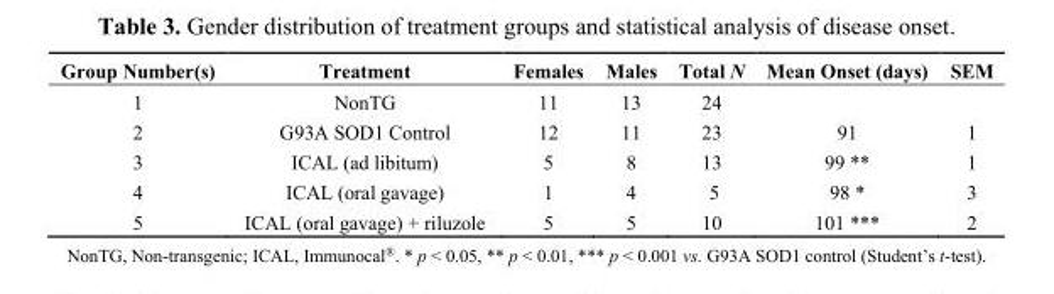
<table><thead><tr><td>Group Number(s)</td><td>Treatment</td><td>Females</td><td>Males</td><td>Total N</td><td>Mean Onset (days)</td><td>SEM</td></tr></thead><tbody><tr><td>1</td><td>NonTG</td><td>11</td><td>13</td><td>24</td><td></td><td></td></tr><tr><td>2</td><td>G93A SOD1 Control</td><td>12</td><td>11</td><td>23</td><td>91</td><td>1</td></tr><tr><td>3</td><td>ICAL (ad libitum)</td><td>5</td><td>8</td><td>13</td><td>99 **</td><td>1</td></tr><tr><td>4</td><td>ICAL (oral gavage)</td><td>1</td><td>4</td><td>5</td><td>98 *</td><td>3</td></tr><tr><td>5</td><td>ICAL (oral gavage) + riluzole</td><td>5</td><td>5</td><td>10</td><td>101 ***</td><td>2</td></tr></tbody></table>